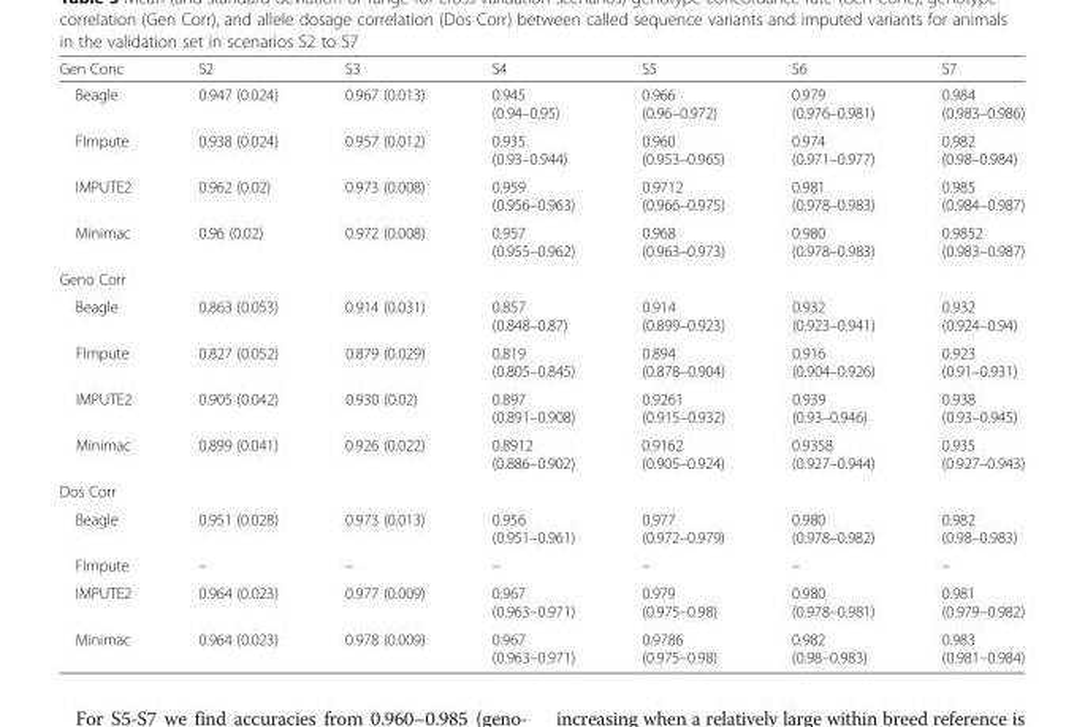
<table><thead><tr><td>Gen Conc</td><td>S2</td><td>S3</td><td>S4</td><td>S5</td><td>S6</td><td>S7</td></tr></thead><tbody><tr><td>Beagle</td><td>0.947 (0.024)</td><td>0.967 (0.013)</td><td>0.945 (0.94–0.95)</td><td>0.966 (0.96–0.972)</td><td>0.979 (0.976–0.981)</td><td>0.984 (0.983–0.986)</td></tr><tr><td>FImpute</td><td>0.938 (0.024)</td><td>0.957 (0.012)</td><td>0.935 (0.93–0.944)</td><td>0.960 (0.953–0.965)</td><td>0.974 (0.971–0.977)</td><td>0.982 (0.98–0.984)</td></tr><tr><td>IMPUTE2</td><td>0.962 (0.02)</td><td>0.973 (0.008)</td><td>0.959 (0.956–0.963)</td><td>0.9712 (0.966–0.975)</td><td>0.981 (0.978–0.983)</td><td>0.985 (0.984–0.987)</td></tr><tr><td>Minimac</td><td>0.96 (0.02)</td><td>0.972 (0.008)</td><td>0.957 (0.955–0.962)</td><td>0.968 (0.963–0.973)</td><td>0.980 (0.978–0.983)</td><td>0.9852 (0.983–0.987)</td></tr><tr><td colspan="7">Geno Corr</td></tr><tr><td>Beagle</td><td>0.863 (0.053)</td><td>0.914 (0.031)</td><td>0.857 (0.848–0.87)</td><td>0.914 (0.899–0.923)</td><td>0.932 (0.923–0.941)</td><td>0.932 (0.924–0.94)</td></tr><tr><td>FImpute</td><td>0.827 (0.052)</td><td>0.879 (0.029)</td><td>0.819 (0.805–0.845)</td><td>0.894 (0.878–0.904)</td><td>0.916 (0.904–0.926)</td><td>0.923 (0.91–0.931)</td></tr><tr><td>IMPUTE2</td><td>0.905 (0.042)</td><td>0.930 (0.02)</td><td>0.897 (0.891–0.908)</td><td>0.9261 (0.915–0.932)</td><td>0.939 (0.93–0.946)</td><td>0.938 (0.93–0.945)</td></tr><tr><td>Minimac</td><td>0.899 (0.041)</td><td>0.926 (0.022)</td><td>0.8912 (0.886–0.902)</td><td>0.9162 (0.905–0.924)</td><td>0.9358 (0.927–0.944)</td><td>0.935 (0.927–0.943)</td></tr><tr><td colspan="7">Dos Corr</td></tr><tr><td>Beagle</td><td>0.951 (0.028)</td><td>0.973 (0.013)</td><td>0.956 (0.951–0.961)</td><td>0.977 (0.972–0.979)</td><td>0.980 (0.978–0.982)</td><td>0.982 (0.98–0.983)</td></tr><tr><td>FImpute</td><td>–</td><td>–</td><td>–</td><td>–</td><td>–</td><td>–</td></tr><tr><td>IMPUTE2</td><td>0.964 (0.023)</td><td>0.977 (0.009)</td><td>0.967 (0.963–0.971)</td><td>0.979 (0.975–0.98)</td><td>0.980 (0.978–0.981)</td><td>0.981 (0.979–0.982)</td></tr><tr><td>Minimac</td><td>0.964 (0.023)</td><td>0.978 (0.009)</td><td>0.967 (0.963–0.971)</td><td>0.9786 (0.975–0.98)</td><td>0.982 (0.98–0.983)</td><td>0.983 (0.981–0.984)</td></tr></tbody></table>